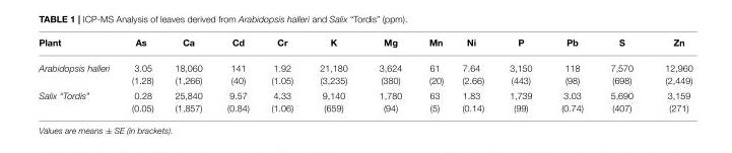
<table><thead><tr><td>Plant</td><td>As</td><td>Ca</td><td>Cd</td><td>Cr</td><td>K</td><td>Mg</td><td>Mn</td><td>Ni</td><td>P</td><td>Pb</td><td>S</td><td>Zn</td></tr></thead><tbody><tr><td>Arabidopsis halleri</td><td>3.05 (1.28)</td><td>18,060 (1,266)</td><td>141 (40)</td><td>1.92 (1.05)</td><td>21,180 (3,235)</td><td>3,624 (380)</td><td>61 (20)</td><td>7.64 (2.66)</td><td>3,150 (443)</td><td>118 (98)</td><td>7,570 (698)</td><td>12,960 (2,449)</td></tr><tr><td>Salix “Tordis”</td><td>0.28 (0.05)</td><td>25,840 (1,857)</td><td>9.57 (0.84)</td><td>4.33 (1.06)</td><td>9,140 (659)</td><td>1,780 (94)</td><td>63 (5)</td><td>1.83 (0.14)</td><td>1,739 (99)</td><td>3.03 (0.74)</td><td>5,690 (407)</td><td>3,159 (271)</td></tr></tbody></table>